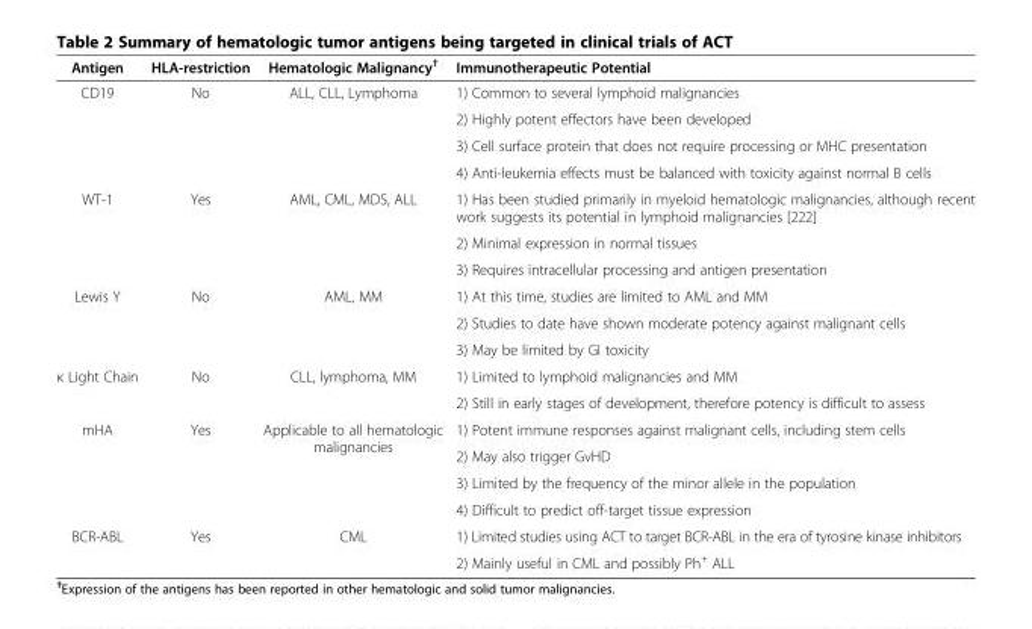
<table><thead><tr><td>Antigen</td><td>HLA-restriction</td><td>Hematologic Malignancy<sup>†</sup></td><td>Immunotherapeutic Potential</td></tr></thead><tbody><tr><td rowspan="4">CD19</td><td rowspan="4">No</td><td rowspan="4">ALL, CLL, Lymphoma</td><td>1) Common to several lymphoid malignancies</td></tr><tr><td>2) Highly potent effectors have been developed</td></tr><tr><td>3) Cell surface protein that does not require processing or MHC presentation</td></tr><tr><td>4) Anti-leukemia effects must be balanced with toxicity against normal B cells</td></tr><tr><td rowspan="3">WT-1</td><td rowspan="3">Yes</td><td rowspan="3">AML, CML, MDS, ALL</td><td>1) Has been studied primarily in myeloid hematologic malignancies, although recent work suggests its potential in lymphoid malignancies [222]</td></tr><tr><td>2) Minimal expression in normal tissues</td></tr><tr><td>3) Requires intracellular processing and antigen presentation</td></tr><tr><td rowspan="3">Lewis Y</td><td rowspan="3">No</td><td rowspan="3">AML, MM</td><td>1) At this time, studies are limited to AML and MM</td></tr><tr><td>2) Studies to date have shown moderate potency against malignant cells</td></tr><tr><td>3) May be limited by GI toxicity</td></tr><tr><td rowspan="2">κ Light Chain</td><td rowspan="2">No</td><td rowspan="2">CLL, lymphoma, MM</td><td>1) Limited to lymphoid malignancies and MM</td></tr><tr><td>2) Still in early stages of development, therefore potency is difficult to assess</td></tr><tr><td rowspan="4">mHA</td><td rowspan="4">Yes</td><td rowspan="4">Applicable to all hematologic malignancies</td><td>1) Potent immune responses against malignant cells, including stem cells</td></tr><tr><td>2) May also trigger GvHD</td></tr><tr><td>3) Limited by the frequency of the minor allele in the population</td></tr><tr><td>4) Difficult to predict off-target tissue expression</td></tr><tr><td rowspan="2">BCR-ABL</td><td rowspan="2">Yes</td><td rowspan="2">CML</td><td>1) Limited studies using ACT to target BCR-ABL in the era of tyrosine kinase inhibitors</td></tr><tr><td>2) Mainly useful in CML and possibly Ph<sup>+</sup> ALL</td></tr></tbody></table>